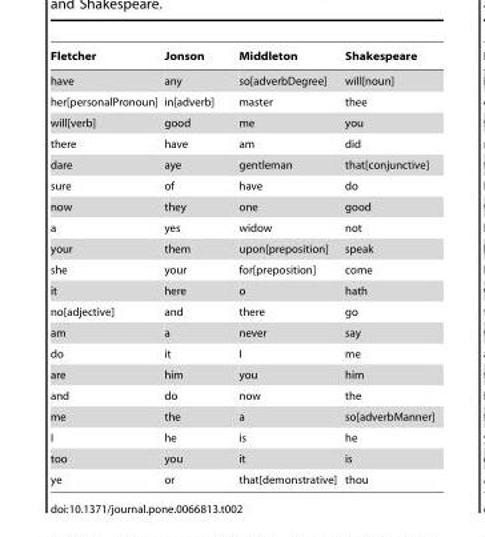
<table><thead><tr><td>Fletcher</td><td>Jonson</td><td>Middleton</td><td>Shakespeare</td></tr></thead><tbody><tr><td>have</td><td>any</td><td>so[adverbDegree]</td><td>will[noun]</td></tr><tr><td>her[personalPronoun]</td><td>in[adverb]</td><td>master</td><td>thee</td></tr><tr><td>will[verb]</td><td>good</td><td>me</td><td>you</td></tr><tr><td>there</td><td>have</td><td>am</td><td>did</td></tr><tr><td>dare</td><td>aye</td><td>gentleman</td><td>that[conjunctive]</td></tr><tr><td>sure</td><td>of</td><td>have</td><td>do</td></tr><tr><td>now</td><td>they</td><td>one</td><td>good</td></tr><tr><td>a</td><td>yes</td><td>widow</td><td>not</td></tr><tr><td>your</td><td>them</td><td>upon[preposition]</td><td>speak</td></tr><tr><td>she</td><td>your</td><td>for[preposition]</td><td>come</td></tr><tr><td>it</td><td>here</td><td>o</td><td>hath</td></tr><tr><td>no[adjective]</td><td>and</td><td>there</td><td>go</td></tr><tr><td>am</td><td>a</td><td>never</td><td>say</td></tr><tr><td>do</td><td>it</td><td>I</td><td>me</td></tr><tr><td>are</td><td>him</td><td>you</td><td>him</td></tr><tr><td>and</td><td>do</td><td>now</td><td>the</td></tr><tr><td>me</td><td>the</td><td>a</td><td>so[adverbManner]</td></tr><tr><td>I</td><td>he</td><td>is</td><td>he</td></tr><tr><td>too</td><td>you</td><td>it</td><td>is</td></tr><tr><td>ye</td><td>or</td><td>that[demonstrative]</td><td>thou</td></tr></tbody></table>